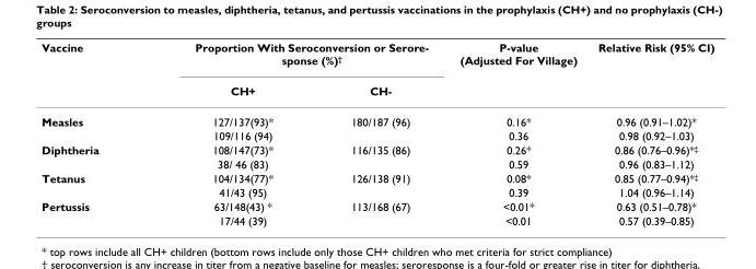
<table><thead><tr><td rowspan="2">Vaccine</td><td colspan="2">Proportion With Seroconversion or Serore- sponse (%)†</td><td rowspan="2">P-value (Adjusted For Village)</td><td rowspan="2">Relative Risk (95% CI)</td></tr><tr><td>CH+</td><td>CH-</td></tr></thead><tbody><tr><td rowspan="2">Measles</td><td>127/137(93)*</td><td>180/187 (96)</td><td>0.16*</td><td>0.96 (0.91–1.02)*</td></tr><tr><td>109/116 (94)</td><td></td><td>0.36</td><td>0.98 (0.92–1.03)</td></tr><tr><td rowspan="2">Diphtheria</td><td>108/147(73)*</td><td>116/135 (86)</td><td>0.26*</td><td>0.86 (0.76–0.96)*<sup>‡</sup></td></tr><tr><td>38/ 46 (83)</td><td></td><td>0.59</td><td>0.96 (0.83–1.12)</td></tr><tr><td rowspan="2">Tetanus</td><td>104/134(77)*</td><td>126/138 (91)</td><td>0.08*</td><td>0.85 (0.77–0.94)*<sup>‡</sup></td></tr><tr><td>41/43 (95)</td><td></td><td>0.39</td><td>1.04 (0.96–1.14)</td></tr><tr><td rowspan="2">Pertussis</td><td>63/148(43) *</td><td>113/168 (67)</td><td>&lt;0.01*</td><td>0.63 (0.51–0.78)*</td></tr><tr><td>17/44 (39)</td><td></td><td>&lt;0.01</td><td>0.57 (0.39–0.85)</td></tr></tbody></table>